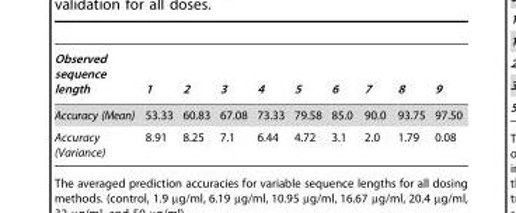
<table><thead><tr><td>Observed sequence length</td><td>1</td><td>2</td><td>3</td><td>4</td><td>5</td><td>6</td><td>7</td><td>8</td><td>9</td></tr></thead><tbody><tr><td>Accuracy (Mean)</td><td>53.33</td><td>60.83</td><td>67.08</td><td>73.33</td><td>79.58</td><td>85.0</td><td>90.0</td><td>93.75</td><td>97.50</td></tr><tr><td>Accuracy (Variance)</td><td>8.91</td><td>8.25</td><td>7.1</td><td>6.44</td><td>4.72</td><td>3.1</td><td>2.0</td><td>1.79</td><td>0.08</td></tr></tbody></table>